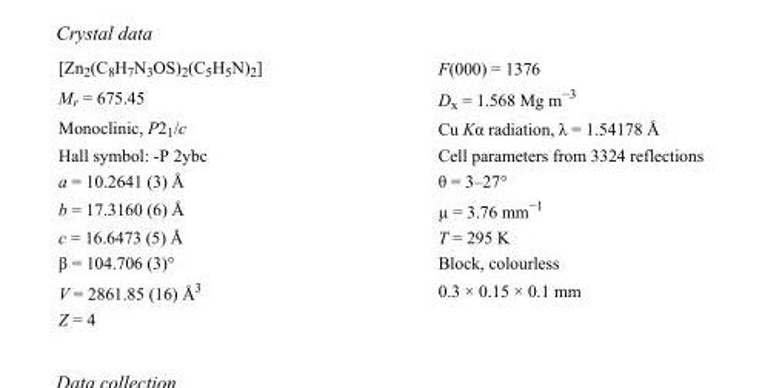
<table><tbody><tr><td>[Zn<sub>2</sub>(C<sub>8</sub>H<sub>7</sub>N<sub>3</sub>OS)<sub>2</sub>(C<sub>5</sub>H<sub>5</sub>N)<sub>2</sub>]</td><td>F(000) = 1376</td></tr><tr><td>M<sub>r</sub> = 675.45</td><td>D<sub>x</sub> = 1.568 Mg m<sup>−3</sup></td></tr><tr><td>Monoclinic, P2<sub>1</sub>/c</td><td>Cu Kα radiation, λ = 1.54178 Å</td></tr><tr><td>Hall symbol: -P 2ybc</td><td>Cell parameters from 3324 reflections</td></tr><tr><td>a = 10.2641 (3) Å</td><td>θ = 3–27°</td></tr><tr><td>b = 17.3160 (6) Å</td><td>µ = 3.76 mm<sup>−1</sup></td></tr><tr><td>c = 16.6473 (5) Å</td><td>T = 295 K</td></tr><tr><td>β = 104.706 (3)°</td><td>Block, colourless</td></tr><tr><td>V = 2861.85 (16) Å<sup>3</sup></td><td>0.3 × 0.15 × 0.1 mm</td></tr><tr><td>Z = 4</td><td></td></tr></tbody></table>